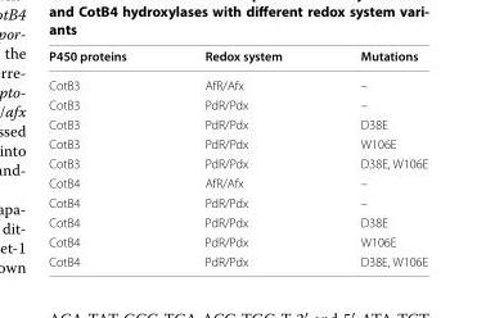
<table><thead><tr><td>P450 proteins</td><td>Redox system</td><td>Mutations</td></tr></thead><tbody><tr><td>CotB3</td><td>AfR/Afx</td><td>–</td></tr><tr><td>CotB3</td><td>PdR/Pdx</td><td>–</td></tr><tr><td>CotB3</td><td>PdR/Pdx</td><td>D38E</td></tr><tr><td>CotB3</td><td>PdR/Pdx</td><td>W106E</td></tr><tr><td>CotB3</td><td>PdR/Pdx</td><td>D38E, W106E</td></tr><tr><td>CotB4</td><td>AfR/Afx</td><td>–</td></tr><tr><td>CotB4</td><td>PdR/Pdx</td><td>–</td></tr><tr><td>CotB4</td><td>PdR/Pdx</td><td>D38E</td></tr><tr><td>CotB4</td><td>PdR/Pdx</td><td>W106E</td></tr><tr><td>CotB4</td><td>PdR/Pdx</td><td>D38E, W106E</td></tr></tbody></table>